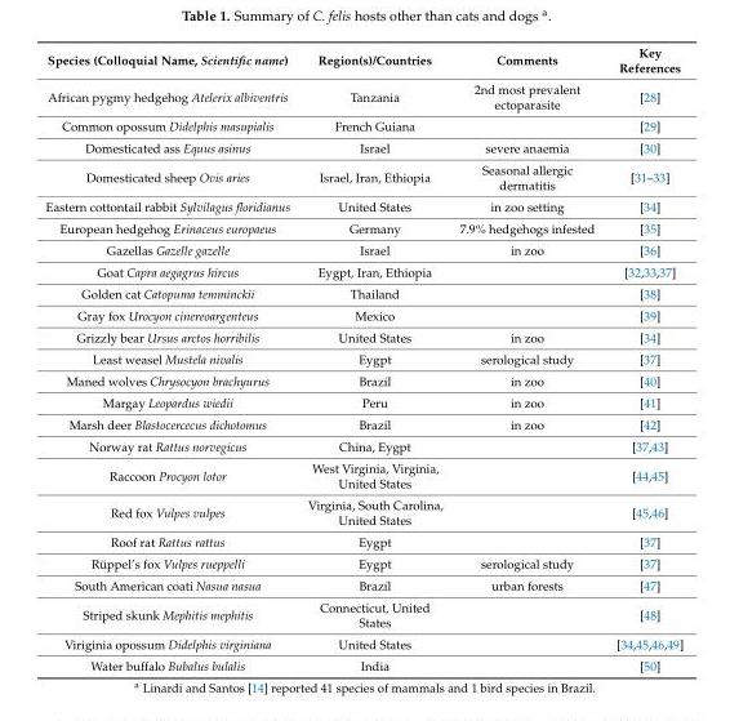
<table><thead><tr><td>Species (Colloquial Name, Scientific name)</td><td>Region(s)/Countries</td><td>Comments</td><td>Key References</td></tr></thead><tbody><tr><td>African pygmy hedgehog Atelerix albiventris</td><td>Tanzania</td><td>2nd most prevalent ectoparasite</td><td>[28]</td></tr><tr><td>Common opossum Didelphis masupialis</td><td>French Guiana</td><td></td><td>[29]</td></tr><tr><td>Domesticated ass Equus asinus</td><td>Israel</td><td>severe anaemia</td><td>[30]</td></tr><tr><td>Domesticated sheep Ovis aries</td><td>Israel, Iran, Ethiopia</td><td>Seasonal allergic dermatitis</td><td>[31–33]</td></tr><tr><td>Eastern cottontail rabbit Sylvilagus floridianus</td><td>United States</td><td>in zoo setting</td><td>[34]</td></tr><tr><td>European hedgehog Erinaceus europaeus</td><td>Germany</td><td>7.9% hedgehogs infested</td><td>[35]</td></tr><tr><td>Gazellas Gazelle gazelle</td><td>Israel</td><td>in zoo</td><td>[36]</td></tr><tr><td>Goat Capra aegagrus hircus</td><td>Eygpt, Iran, Ethiopia</td><td></td><td>[32,33,37]</td></tr><tr><td>Golden cat Catopuma temminckii</td><td>Thailand</td><td></td><td>[38]</td></tr><tr><td>Gray fox Urocyon cinereoargenteus</td><td>Mexico</td><td></td><td>[39]</td></tr><tr><td>Grizzly bear Ursus arctos horribilis</td><td>United States</td><td>in zoo</td><td>[34]</td></tr><tr><td>Least weasel Mustela nivalis</td><td>Eygpt</td><td>serological study</td><td>[37]</td></tr><tr><td>Maned wolves Chrysocyon brachyurus</td><td>Brazil</td><td>in zoo</td><td>[40]</td></tr><tr><td>Margay Leopardus wiedii</td><td>Peru</td><td>in zoo</td><td>[41]</td></tr><tr><td>Marsh deer Blastocercecus dichotomus</td><td>Brazil</td><td>in zoo</td><td>[42]</td></tr><tr><td>Norway rat Rattus norvegicus</td><td>China, Eygpt</td><td></td><td>[37,43]</td></tr><tr><td>Raccoon Procyon lotor</td><td>West Virginia, Virginia, United States</td><td></td><td>[44,45]</td></tr><tr><td>Red fox Vulpes vulpes</td><td>Virginia, South Carolina, United States</td><td></td><td>[45,46]</td></tr><tr><td>Roof rat Rattus rattus</td><td>Eygpt</td><td></td><td>[37]</td></tr><tr><td>Rüppel’s fox Vulpes rueppelli</td><td>Eygpt</td><td>serological study</td><td>[37]</td></tr><tr><td>South American coati Nasua nasua</td><td>Brazil</td><td>urban forests</td><td>[47]</td></tr><tr><td>Striped skunk Mephitis mephitis</td><td>Connecticut, United States</td><td></td><td>[48]</td></tr><tr><td>Viriginia opossum Didelphis virginiana</td><td>United States</td><td></td><td>[34,45,46,49]</td></tr><tr><td>Water buffalo Bubalus bulalis</td><td>India</td><td></td><td>[50]</td></tr></tbody></table>